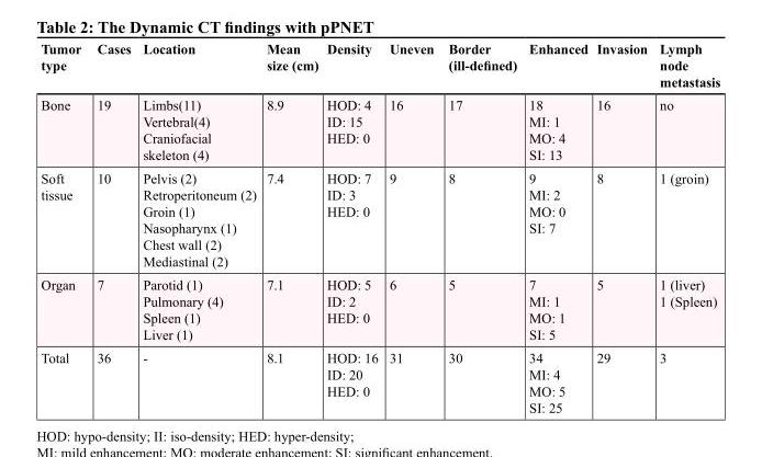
<table><thead><tr><td>Tumor type</td><td>Cases</td><td>Location</td><td>Mean size (cm)</td><td>Density</td><td>Uneven</td><td>Border (ill-defined)</td><td>Enhanced</td><td>Invasion</td><td>Lymph node metastasis</td></tr></thead><tbody><tr><td>Bone</td><td>19</td><td>Limbs(11) Vertebral(4) Craniofacial skeleton (4)</td><td>8.9</td><td>HOD: 4 ID: 15 HED: 0</td><td>16</td><td>17</td><td>18 MI: 1 MO: 4 SI: 13</td><td>16</td><td>no</td></tr><tr><td>Soft tissue</td><td>10</td><td>Pelvis (2) Retroperitoneum (2) Groin (1) Nasopharynx (1) Chest wall (2) Mediastinal (2)</td><td>7.4</td><td>HOD: 7 ID: 3 HED: 0</td><td>9</td><td>8</td><td>9 MI: 2 MO: 0 SI: 7</td><td>8</td><td>1 (groin)</td></tr><tr><td>Organ</td><td>7</td><td>Parotid (1) Pulmonary (4) Spleen (1) Liver (1)</td><td>7.1</td><td>HOD: 5 ID: 2 HED: 0</td><td>6</td><td>5</td><td>7 MI: 1 MO: 1 SI: 5</td><td>5</td><td>1 (liver) 1 (Spleen)</td></tr><tr><td>Total</td><td>36</td><td>-</td><td>8.1</td><td>HOD: 16 ID: 20 HED: 0</td><td>31</td><td>30</td><td>34 MI: 4 MO: 5 SI: 25</td><td>29</td><td>3</td></tr></tbody></table>